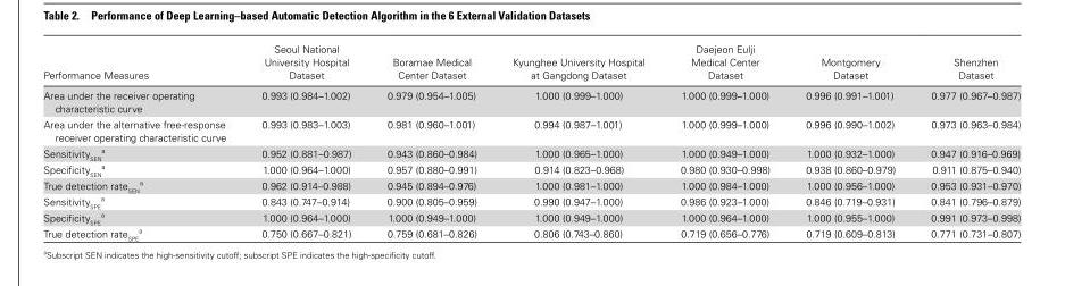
<table><thead><tr><td>Performance Measures</td><td>Seoul National University Hospital Dataset</td><td>Boramae Medical Center Dataset</td><td>Kyunghee University Hospital at Gangdong Dataset</td><td>Daejeon Eulji Medical Center Dataset</td><td>Montgomery Dataset</td><td>Shenzhen Dataset</td></tr></thead><tbody><tr><td>Area under the receiver operating characteristic curve</td><td>0.993 (0.984–1.002)</td><td>0.979 (0.954–1.005)</td><td>1.000 (0.999–1.000)</td><td>1.000 (0.999–1.000)</td><td>0.996 (0.991–1.001)</td><td>0.977 (0.967–0.987)</td></tr><tr><td>Area under the alternative free-response receiver operating characteristic curve</td><td>0.993 (0.983–1.003)</td><td>0.981 (0.960–1.001)</td><td>0.994 (0.987–1.001)</td><td>1.000 (0.999–1.000)</td><td>0.996 (0.990–1.002)</td><td>0.973 (0.963–0.984)</td></tr><tr><td>Sensitivity<sub>SEN</sub> <sup>a</sup></td><td>0.952 (0.881–0.987)</td><td>0.943 (0.860–0.984)</td><td>1.000 (0.965–1.000)</td><td>1.000 (0.949–1.000)</td><td>1.000 (0.932–1.000)</td><td>0.947 (0.916–0.969)</td></tr><tr><td>Specificity<sub>SEN</sub> <sup>a</sup></td><td>1.000 (0.964–1.000)</td><td>0.957 (0.880–0.991)</td><td>0.914 (0.823–0.968)</td><td>0.980 (0.930–0.998)</td><td>0.938 (0.860–0.979)</td><td>0.911 (0.875–0.940)</td></tr><tr><td>True detection rate<sub>SEN</sub> <sup>a</sup></td><td>0.962 (0.914–0.988)</td><td>0.945 (0.894–0.976)</td><td>1.000 (0.981–1.000)</td><td>1.000 (0.984–1.000)</td><td>1.000 (0.956–1.000)</td><td>0.953 (0.931–0.970)</td></tr><tr><td>Sensitivity<sub>SPE</sub> <sup>a</sup></td><td>0.843 (0.747–0.914)</td><td>0.900 (0.805–0.959)</td><td>0.990 (0.947–1.000)</td><td>0.986 (0.923–1.000)</td><td>0.846 (0.719–0.931)</td><td>0.841 (0.796–0.879)</td></tr><tr><td>Specificity<sub>SPE</sub> <sup>a</sup></td><td>1.000 (0.964–1.000)</td><td>1.000 (0.949–1.000)</td><td>1.000 (0.949–1.000)</td><td>1.000 (0.964–1.000)</td><td>1.000 (0.955–1.000)</td><td>0.991 (0.973–0.998)</td></tr><tr><td>True detection rate<sub>SPE</sub> <sup>a</sup></td><td>0.750 (0.667–0.821)</td><td>0.759 (0.681–0.826)</td><td>0.806 (0.743–0.860)</td><td>0.719 (0.656–0.776)</td><td>0.719 (0.609–0.813)</td><td>0.771 (0.731–0.807)</td></tr></tbody></table>